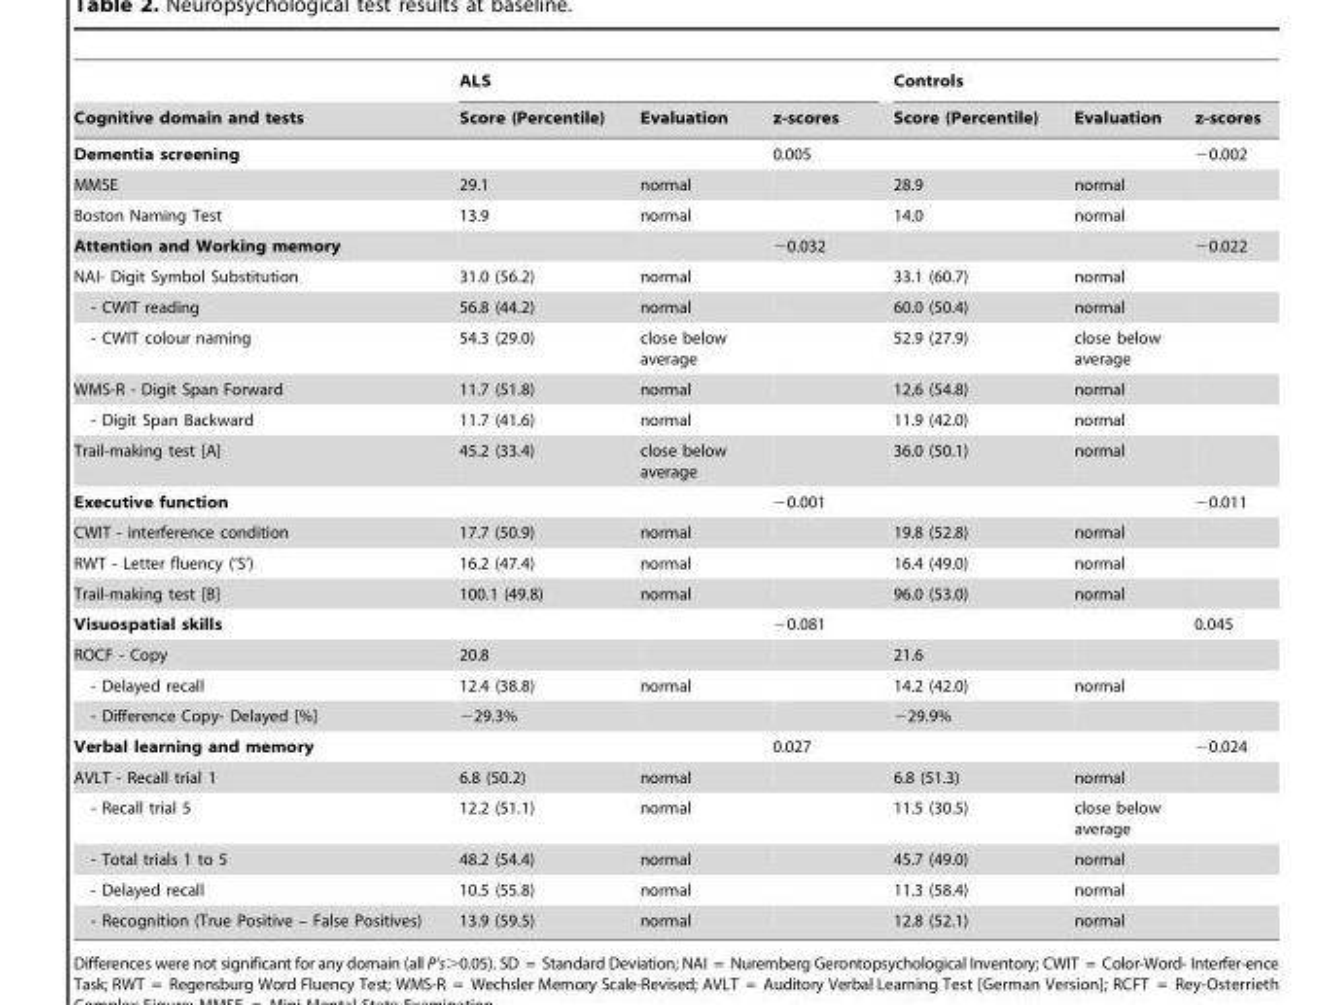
<table><thead><tr><td rowspan="2">Cognitive domain and tests</td><td colspan="3">ALS</td><td colspan="3">Controls</td></tr><tr><td>Score (Percentile)</td><td>Evaluation</td><td>z-scores</td><td>Score (Percentile)</td><td>Evaluation</td><td>z-scores</td></tr></thead><tbody><tr><td>Dementia screening</td><td></td><td></td><td>0.005</td><td></td><td></td><td>−0.002</td></tr><tr><td>MMSE</td><td>29.1</td><td>normal</td><td></td><td>28.9</td><td>normal</td><td></td></tr><tr><td>Boston Naming Test</td><td>13.9</td><td>normal</td><td></td><td>14.0</td><td>normal</td><td></td></tr><tr><td>Attention and Working memory</td><td></td><td></td><td>−0.032</td><td></td><td></td><td>−0.022</td></tr><tr><td>NAI- Digit Symbol Substitution</td><td>31.0 (56.2)</td><td>normal</td><td></td><td>33.1 (60.7)</td><td>normal</td><td></td></tr><tr><td>- CWIT reading</td><td>56.8 (44.2)</td><td>normal</td><td></td><td>60.0 (50.4)</td><td>normal</td><td></td></tr><tr><td>- CWIT colour naming</td><td>54.3 (29.0)</td><td>close below average</td><td></td><td>52.9 (27.9)</td><td>close below average</td><td></td></tr><tr><td>WMS-R - Digit Span Forward</td><td>11.7 (51.8)</td><td>normal</td><td></td><td>12,6 (54.8)</td><td>normal</td><td></td></tr><tr><td>- Digit Span Backward</td><td>11.7 (41.6)</td><td>normal</td><td></td><td>11.9 (42.0)</td><td>normal</td><td></td></tr><tr><td>Trail-making test [A]</td><td>45.2 (33.4)</td><td>close below average</td><td></td><td>36.0 (50.1)</td><td>normal</td><td></td></tr><tr><td>Executive function</td><td></td><td></td><td>−0.001</td><td></td><td></td><td>−0.011</td></tr><tr><td>CWIT - interference condition</td><td>17.7 (50.9)</td><td>normal</td><td></td><td>19.8 (52.8)</td><td>normal</td><td></td></tr><tr><td>RWT - Letter fluency (‘S’)</td><td>16.2 (47.4)</td><td>normal</td><td></td><td>16.4 (49.0)</td><td>normal</td><td></td></tr><tr><td>Trail-making test [B]</td><td>100.1 (49.8)</td><td>normal</td><td></td><td>96.0 (53.0)</td><td>normal</td><td></td></tr><tr><td>Visuospatial skills</td><td></td><td></td><td>−0.081</td><td></td><td></td><td>0.045</td></tr><tr><td>ROCF - Copy</td><td>20.8</td><td></td><td></td><td>21.6</td><td></td><td></td></tr><tr><td>- Delayed recall</td><td>12.4 (38.8)</td><td>normal</td><td></td><td>14.2 (42.0)</td><td>normal</td><td></td></tr><tr><td>- Difference Copy- Delayed [%]</td><td>−29.3%</td><td></td><td></td><td>−29.9%</td><td></td><td></td></tr><tr><td>Verbal learning and memory</td><td></td><td></td><td>0.027</td><td></td><td></td><td>−0.024</td></tr><tr><td>AVLT - Recall trial 1</td><td>6.8 (50.2)</td><td>normal</td><td></td><td>6.8 (51.3)</td><td>normal</td><td></td></tr><tr><td>- Recall trial 5</td><td>12.2 (51.1)</td><td>normal</td><td></td><td>11.5 (30.5)</td><td>close below average</td><td></td></tr><tr><td>- Total trials 1 to 5</td><td>48.2 (54.4)</td><td>normal</td><td></td><td>45.7 (49.0)</td><td>normal</td><td></td></tr><tr><td>- Delayed recall</td><td>10.5 (55.8)</td><td>normal</td><td></td><td>11.3 (58.4)</td><td>normal</td><td></td></tr><tr><td>- Recognition (True Positive – False Positives)</td><td>13.9 (59.5)</td><td>normal</td><td></td><td>12.8 (52.1)</td><td>normal</td><td></td></tr></tbody></table>